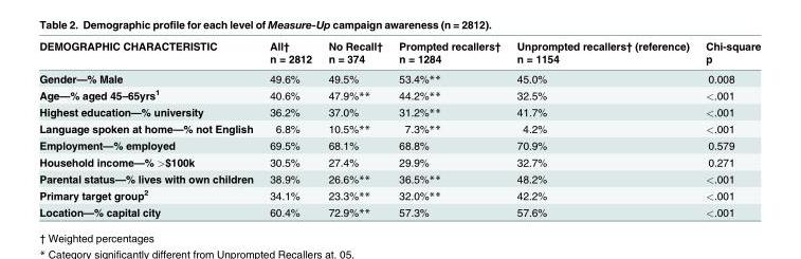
<table><thead><tr><td rowspan="2">DEMOGRAPHIC CHARACTERISTIC</td><td rowspan="2">All† n = 2812</td><td rowspan="2">No Recall† n = 374</td><td rowspan="2">Prompted recallers† n = 1284</td><td rowspan="2">Unprompted recallers† (reference) n = 1154</td><td rowspan="2">Chi-square p</td></tr><tr></tr></thead><tbody><tr><td>Gender—% Male</td><td>49.6%</td><td>49.5%</td><td>53.4%**</td><td>45.0%</td><td>0.008</td></tr><tr><td>Age—% aged 45–65yrs<sup>1</sup></td><td>40.6%</td><td>47.9%**</td><td>44.2%**</td><td>32.5%</td><td>&lt;.001</td></tr><tr><td>Highest education—% university</td><td>36.2%</td><td>37.0%</td><td>31.2%**</td><td>41.7%</td><td>&lt;.001</td></tr><tr><td>Language spoken at home—% not English</td><td>6.8%</td><td>10.5%**</td><td>7.3%**</td><td>4.2%</td><td>&lt;.001</td></tr><tr><td>Employment—% employed</td><td>69.5%</td><td>68.1%</td><td>68.8%</td><td>70.9%</td><td>0.579</td></tr><tr><td>Household income—% &gt;$100k</td><td>30.5%</td><td>27.4%</td><td>29.9%</td><td>32.7%</td><td>0.271</td></tr><tr><td>Parental status—% lives with own children</td><td>38.9%</td><td>26.6%**</td><td>36.5%**</td><td>48.2%</td><td>&lt;.001</td></tr><tr><td>Primary target group<sup>2</sup></td><td>34.1%</td><td>23.3%**</td><td>32.0%**</td><td>42.2%</td><td>&lt;.001</td></tr><tr><td>Location—% capital city</td><td>60.4%</td><td>72.9%**</td><td>57.3%</td><td>57.6%</td><td>&lt;.001</td></tr></tbody></table>